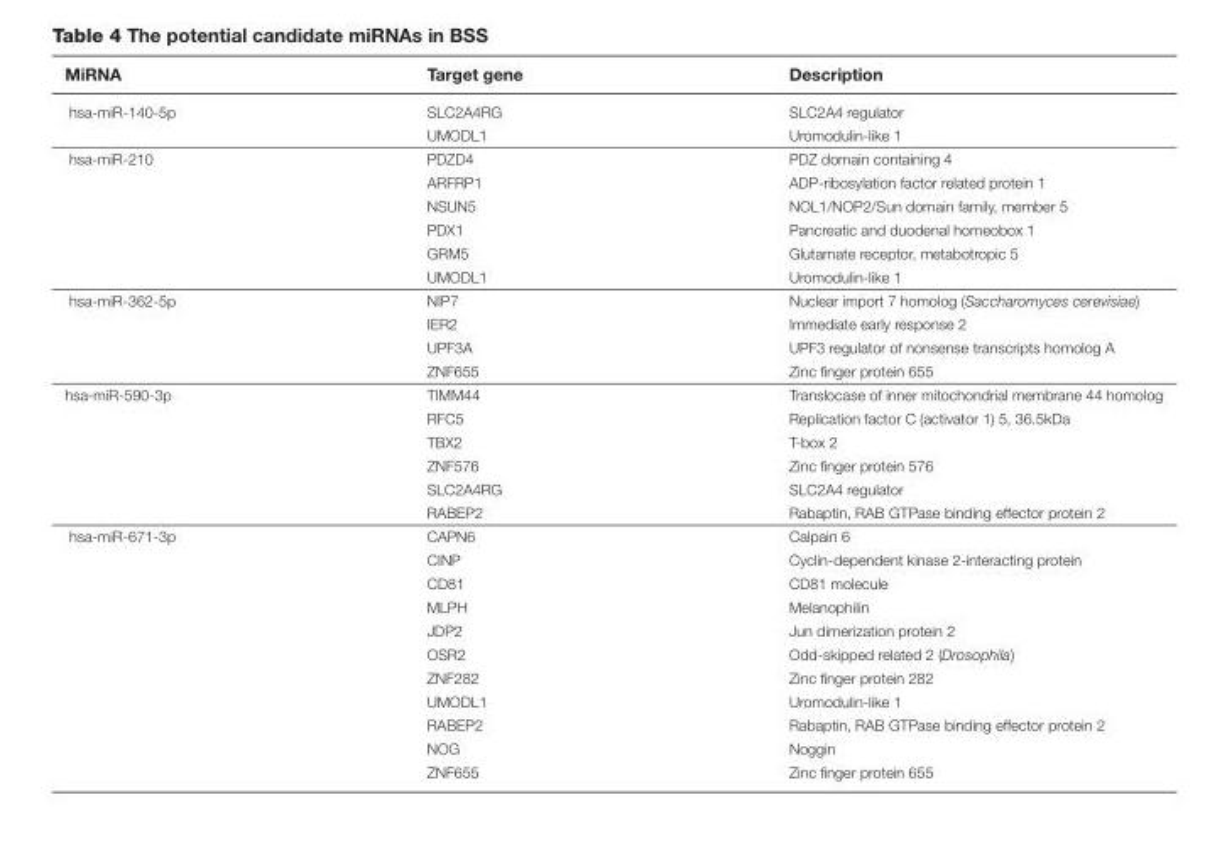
<table><thead><tr><td>MiRNA</td><td>Target gene</td><td>Description</td></tr></thead><tbody><tr><td rowspan="2">hsa-miR-140-5p</td><td>SLC2A4RG</td><td>SLC2A4 regulator</td></tr><tr><td>UMODL1</td><td>Uromodulin-like 1</td></tr><tr><td rowspan="6">hsa-miR-210</td><td>PDZD4</td><td>PDZ domain containing 4</td></tr><tr><td>ARFRP1</td><td>ADP-ribosylation factor related protein 1</td></tr><tr><td>NSUN5</td><td>NOL1/NOP2/Sun domain family, member 5</td></tr><tr><td>PDX1</td><td>Pancreatic and duodenal homeobox 1</td></tr><tr><td>GRM5</td><td>Glutamate receptor, metabotropic 5</td></tr><tr><td>UMODL1</td><td>Uromodulin-like 1</td></tr><tr><td rowspan="4">hsa-miR-362-5p</td><td>NIP7</td><td>Nuclear import 7 homolog (Saccharomyces cerevisiae)</td></tr><tr><td>IER2</td><td>Immediate early response 2</td></tr><tr><td>UPF3A</td><td>UPF3 regulator of nonsense transcripts homolog A</td></tr><tr><td>ZNF655</td><td>Zinc finger protein 655</td></tr><tr><td rowspan="6">hsa-miR-590-3p</td><td>TIMM44</td><td>Translocase of inner mitochondrial membrane 44 homolog</td></tr><tr><td>RFC5</td><td>Replication factor C (activator 1) 5, 36.5kDa</td></tr><tr><td>TBX2</td><td>T-box 2</td></tr><tr><td>ZNF576</td><td>Zinc finger protein 576</td></tr><tr><td>SLC2A4RG</td><td>SLC2A4 regulator</td></tr><tr><td>RABEP2</td><td>Rabaptin, RAB GTPase binding effector protein 2</td></tr><tr><td rowspan="11">hsa-miR-671-3p</td><td>CAPN6</td><td>Calpain 6</td></tr><tr><td>CINP</td><td>Cyclin-dependent kinase 2-interacting protein</td></tr><tr><td>CD81</td><td>CD81 molecule</td></tr><tr><td>MLPH</td><td>Melanophilin</td></tr><tr><td>JDP2</td><td>Jun dimerization protein 2</td></tr><tr><td>OSR2</td><td>Odd-skipped related 2 (Drosophila)</td></tr><tr><td>ZNF282</td><td>Zinc finger protein 282</td></tr><tr><td>UMODL1</td><td>Uromodulin-like 1</td></tr><tr><td>RABEP2</td><td>Rabaptin, RAB GTPase binding effector protein 2</td></tr><tr><td>NOG</td><td>Noggin</td></tr><tr><td>ZNF655</td><td>Zinc finger protein 655</td></tr></tbody></table>